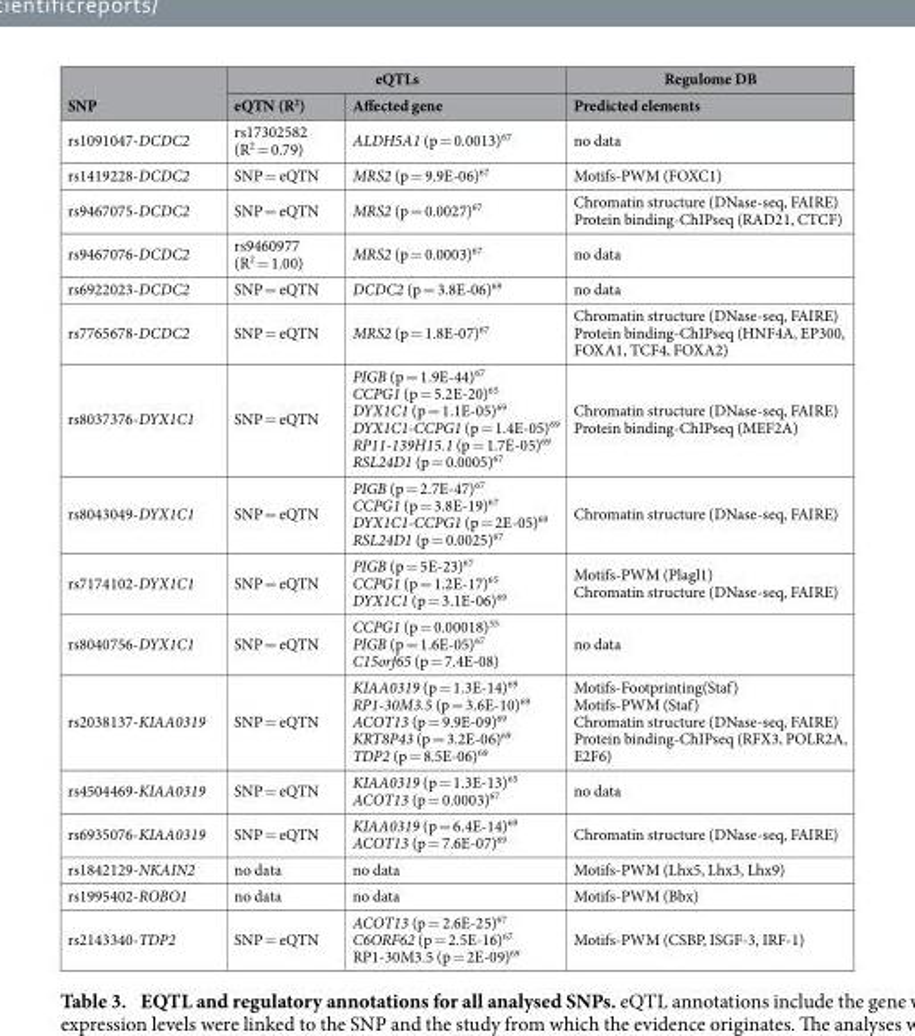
<table><thead><tr><td rowspan="2">SNP</td><td colspan="2">eQTLs</td><td rowspan="2">Regulome DB Predicted elements</td></tr><tr><td>eQTN (R<sup>2</sup>)</td><td>Affected gene</td></tr></thead><tbody><tr><td>rs1091047-DCDC2</td><td>rs17302582 (R<sup>2</sup> = 0.79)</td><td>ALDH5A1 (p = 0.0013)<sup>67</sup></td><td>no data</td></tr><tr><td>rs1419228-DCDC2</td><td>SNP = eQTN</td><td>MRS2 (p = 9.9E-06)<sup>67</sup></td><td>Motifs-PWM (FOXC1)</td></tr><tr><td>rs9467075-DCDC2</td><td>SNP = eQTN</td><td>MRS2 (p = 0.0027)<sup>67</sup></td><td>Chromatin structure (DNase-seq, FAIRE) Protein binding-ChIPseq (RAD21, CTCF)</td></tr><tr><td>rs9467076-DCDC2</td><td>rs9460977 (R<sup>2</sup> = 1.00)</td><td>MRS2 (p = 0.0003)<sup>67</sup></td><td>no data</td></tr><tr><td>rs6922023-DCDC2</td><td>SNP = eQTN</td><td>DCDC2 (p = 3.8E-06)<sup>69</sup></td><td>no data</td></tr><tr><td>rs7765678-DCDC2</td><td>SNP = eQTN</td><td>MRS2 (p = 1.8E-07)<sup>67</sup></td><td>Chromatin structure (DNase-seq, FAIRE) Protein binding-ChIPseq (HNF4A, EP300, FOXA1, TCF4, FOXA2)</td></tr><tr><td>rs8037376-DYX1C1</td><td>SNP = eQTN</td><td>PIGB (p = 1.9E-44)<sup>67</sup> CCPG1 (p = 5.2E-20)<sup>65</sup> DYX1C1 (p = 1.1E-05)<sup>69</sup> DYX1C1-CCPG1 (p = 1.4E-05)<sup>69</sup> RP11-139H15.1 (p = 1.7E-05)<sup>69</sup> RSL24D1 (p = 0.0005)<sup>67</sup></td><td>Chromatin structure (DNase-seq, FAIRE) Protein binding-ChIPseq (MEF2A)</td></tr><tr><td>rs8043049-DYX1C1</td><td>SNP = eQTN</td><td>PIGB (p = 2.7E-47)<sup>67</sup> CCPG1 (p = 3.8E-19)<sup>67</sup> DYX1C1-CCPG1 (p = 2E-05)<sup>69</sup> RSL24D1 (p = 0.0025)<sup>67</sup></td><td>Chromatin structure (DNase-seq, FAIRE)</td></tr><tr><td>rs7174102-DYX1C1</td><td>SNP = eQTN</td><td>PIGB (p = 5E-23)<sup>67</sup> CCPG1 (p = 1.2E-17)<sup>65</sup> DYX1C1 (p = 3.1E-06)<sup>69</sup></td><td>Motifs-PWM (Plagl1) Chromatin structure (DNase-seq, FAIRE)</td></tr><tr><td>rs8040756-DYX1C1</td><td>SNP = eQTN</td><td>CCPG1 (p = 0.00018)<sup>55</sup> PIGB (p = 1.6E-05)<sup>67</sup> C15orf65 (p = 7.4E-08)</td><td>no data</td></tr><tr><td>rs2038137-KIAA0319</td><td>SNP = eQTN</td><td>KIAA0319 (p = 1.3E-14)<sup>69</sup> RP1-30M3.5 (p = 3.6E-10)<sup>69</sup> ACOT13 (p = 9.9E-09)<sup>69</sup> KRT8P43 (p = 3.2E-06)<sup>69</sup> TDP2 (p = 8.5E-06)<sup>69</sup></td><td>Motifs-Footprinting(Staf) Motifs-PWM (Staf) Chromatin structure (DNase-seq, FAIRE) Protein binding-ChIPseq (RFX3, POLR2A, E2F6)</td></tr><tr><td>rs4504469-KIAA0319</td><td>SNP = eQTN</td><td>KIAA0319 (p = 1.3E-13)<sup>65</sup> ACOT13 (p = 0.0003)<sup>67</sup></td><td>no data</td></tr><tr><td>rs6935076-KIAA0319</td><td>SNP = eQTN</td><td>KIAA0319 (p = 6.4E-14)<sup>69</sup> ACOT13 (p = 7.6E-07)<sup>69</sup></td><td>Chromatin structure (DNase-seq, FAIRE)</td></tr><tr><td>rs1842129-NKAIN2</td><td>no data</td><td>no data</td><td>Motifs-PWM (Lhx5, Lhx3, Lhx9)</td></tr><tr><td>rs1995402-ROBO1</td><td>no data</td><td>no data</td><td>Motifs-PWM (Bbx)</td></tr><tr><td>rs2143340-TDP2</td><td>SNP = eQTN</td><td>ACOT13 (p = 2.6E-25)<sup>67</sup> C6ORF62 (p = 2.5E-16)<sup>67</sup> RP1-30M3.5 (p = 2E-09)<sup>69</sup></td><td>Motifs-PWM (CSBP, ISGF-3, IRF-1)</td></tr></tbody></table>